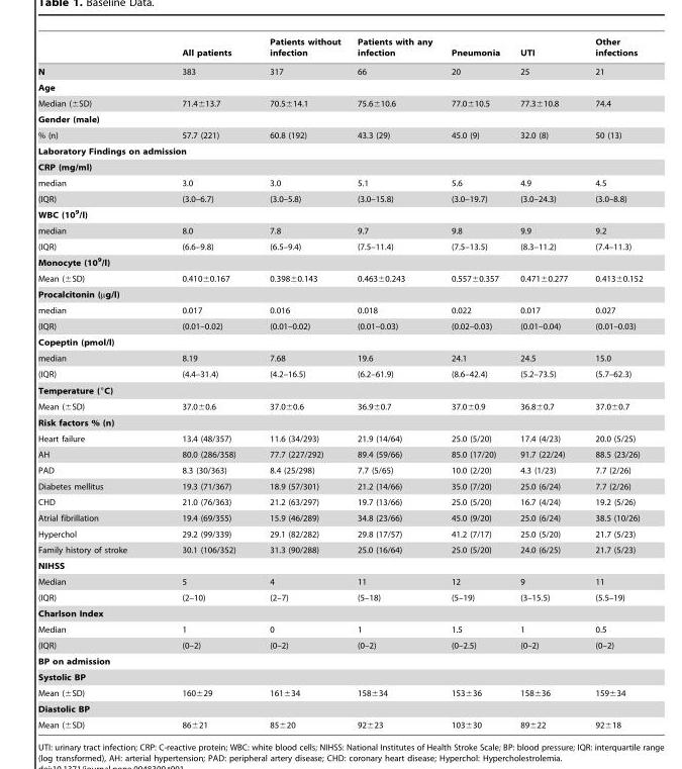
<table><thead><tr><td></td><td>All patients</td><td>Patients without infection</td><td>Patients with any infection</td><td>Pneumonia</td><td>UTI</td><td>Other infections</td></tr></thead><tbody><tr><td>N</td><td>383</td><td>317</td><td>66</td><td>20</td><td>25</td><td>21</td></tr><tr><td colspan="7">Age</td></tr><tr><td>Median (±SD)</td><td>71.4±13.7</td><td>70.5±14.1</td><td>75.6±10.6</td><td>77.0±10.5</td><td>77.3±10.8</td><td>74.4</td></tr><tr><td colspan="7">Gender (male)</td></tr><tr><td>% (n)</td><td>57.7 (221)</td><td>60.8 (192)</td><td>43.3 (29)</td><td>45.0 (9)</td><td>32.0 (8)</td><td>50 (13)</td></tr><tr><td colspan="7">Laboratory Findings on admission</td></tr><tr><td colspan="7">CRP (mg/ml)</td></tr><tr><td>median</td><td>3.0</td><td>3.0</td><td>5.1</td><td>5.6</td><td>4.9</td><td>4.5</td></tr><tr><td>(IQR)</td><td>(3.0–6.7)</td><td>(3.0–5.8)</td><td>(3.0–15.8)</td><td>(3.0–19.7)</td><td>(3.0–24.3)</td><td>(3.0–8.8)</td></tr><tr><td colspan="7">WBC (10<sup>9</sup>/l)</td></tr><tr><td>median</td><td>8.0</td><td>7.8</td><td>9.7</td><td>9.8</td><td>9.9</td><td>9.2</td></tr><tr><td>(IQR)</td><td>(6.6–9.8)</td><td>(6.5–9.4)</td><td>(7.5–11.4)</td><td>(7.5–13.5)</td><td>(8.3–11.2)</td><td>(7.4–11.3)</td></tr><tr><td colspan="7">Monocyte (10<sup>9</sup>/l)</td></tr><tr><td>Mean (±SD)</td><td>0.410±0.167</td><td>0.398±0.143</td><td>0.463±0.243</td><td>0.557±0.357</td><td>0.471±0.277</td><td>0.413±0.152</td></tr><tr><td colspan="7">Procalcitonin (µg/l)</td></tr><tr><td>median</td><td>0.017</td><td>0.016</td><td>0.018</td><td>0.022</td><td>0.017</td><td>0.027</td></tr><tr><td>(IQR)</td><td>(0.01–0.02)</td><td>(0.01–0.02)</td><td>(0.01–0.03)</td><td>(0.02–0.03)</td><td>(0.01–0.04)</td><td>(0.01–0.03)</td></tr><tr><td colspan="7">Copeptin (pmol/l)</td></tr><tr><td>median</td><td>8.19</td><td>7.68</td><td>19.6</td><td>24.1</td><td>24.5</td><td>15.0</td></tr><tr><td>(IQR)</td><td>(4.4–31.4)</td><td>(4.2–16.5)</td><td>(6.2–61.9)</td><td>(8.6–42.4)</td><td>(5.2–73.5)</td><td>(5.7–62.3)</td></tr><tr><td colspan="7">Temperature (°C)</td></tr><tr><td>Mean (±SD)</td><td>37.0±0.6</td><td>37.0±0.6</td><td>36.9±0.7</td><td>37.0±0.9</td><td>36.8±0.7</td><td>37.0±0.7</td></tr><tr><td colspan="7">Risk factors % (n)</td></tr><tr><td>Heart failure</td><td>13.4 (48/357)</td><td>11.6 (34/293)</td><td>21.9 (14/64)</td><td>25.0 (5/20)</td><td>17.4 (4/23)</td><td>20.0 (5/25)</td></tr><tr><td>AH</td><td>80.0 (286/358)</td><td>77.7 (227/292)</td><td>89.4 (59/66)</td><td>85.0 (17/20)</td><td>91.7 (22/24)</td><td>88.5 (23/26)</td></tr><tr><td>PAD</td><td>8.3 (30/363)</td><td>8.4 (25/298)</td><td>7.7 (5/65)</td><td>10.0 (2/20)</td><td>4.3 (1/23)</td><td>7.7 (2/26)</td></tr><tr><td>Diabetes mellitus</td><td>19.3 (71/367)</td><td>18.9 (57/301)</td><td>21.2 (14/66)</td><td>35.0 (7/20)</td><td>25.0 (6/24)</td><td>7.7 (2/26)</td></tr><tr><td>CHD</td><td>21.0 (76/363)</td><td>21.2 (63/297)</td><td>19.7 (13/66)</td><td>25.0 (5/20)</td><td>16.7 (4/24)</td><td>19.2 (5/26)</td></tr><tr><td>Atrial fibrillation</td><td>19.4 (69/355)</td><td>15.9 (46/289)</td><td>34.8 (23/66)</td><td>45.0 (9/20)</td><td>25.0 (6/24)</td><td>38.5 (10/26)</td></tr><tr><td>Hyperchol</td><td>29.2 (99/339)</td><td>29.1 (82/282)</td><td>29.8 (17/57)</td><td>41.2 (7/17)</td><td>25.0 (5/20)</td><td>21.7 (5/23)</td></tr><tr><td>Family history of stroke</td><td>30.1 (106/352)</td><td>31.3 (90/288)</td><td>25.0 (16/64)</td><td>25.0 (5/20)</td><td>24.0 (6/25)</td><td>21.7 (5/23)</td></tr><tr><td colspan="7">NIHSS</td></tr><tr><td>Median</td><td>5</td><td>4</td><td>11</td><td>12</td><td>9</td><td>11</td></tr><tr><td>(IQR)</td><td>(2–10)</td><td>(2–7)</td><td>(5–18)</td><td>(5–19)</td><td>(3–15.5)</td><td>(5.5–19)</td></tr><tr><td colspan="7">Charlson Index</td></tr><tr><td>Median</td><td>1</td><td>0</td><td>1</td><td>1.5</td><td>1</td><td>0.5</td></tr><tr><td>(IQR)</td><td>(0–2)</td><td>(0–2)</td><td>(0–2)</td><td>(0–2.5)</td><td>(0–2)</td><td>(0–2)</td></tr><tr><td colspan="7">BP on admission</td></tr><tr><td colspan="7">Systolic BP</td></tr><tr><td>Mean (±SD)</td><td>160±29</td><td>161±34</td><td>158±34</td><td>153±36</td><td>158±36</td><td>159±34</td></tr><tr><td colspan="7">Diastolic BP</td></tr><tr><td>Mean (±SD)</td><td>86±21</td><td>85±20</td><td>92±23</td><td>103±30</td><td>89±22</td><td>92±18</td></tr></tbody></table>